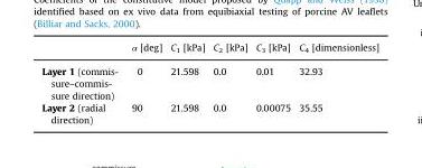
<table><thead><tr><td></td><td>α [deg]</td><td>C<sub>1</sub> [kPa]</td><td>C<sub>2</sub> [kPa]</td><td>C<sub>3</sub> [kPa]</td><td>C<sub>4</sub> [dimensionless]</td></tr></thead><tbody><tr><td>Layer 1 (commis- sure–commis- sure direction)</td><td>0</td><td>21.598</td><td>0.0</td><td>0.01</td><td>32.93</td></tr><tr><td>Layer 2 (radial direction)</td><td>90</td><td>21.598</td><td>0.0</td><td>0.00075</td><td>35.55</td></tr></tbody></table>